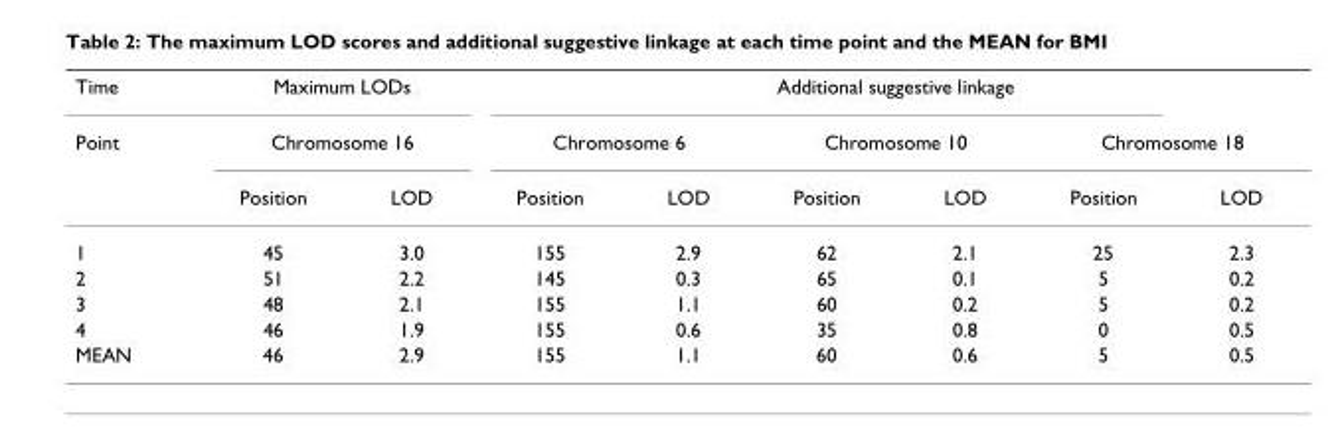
<table><thead><tr><td rowspan="3">Time Point</td><td rowspan="2" colspan="2">Maximum LODs Chromosome 16</td><td colspan="6">Additional suggestive linkage</td></tr><tr><td colspan="2">Chromosome 6</td><td colspan="2">Chromosome 10</td><td colspan="2">Chromosome 18</td></tr><tr><td>Position</td><td>LOD</td><td>Position</td><td>LOD</td><td>Position</td><td>LOD</td><td>Position</td><td>LOD</td></tr></thead><tbody><tr><td>1</td><td>45</td><td>3.0</td><td>155</td><td>2.9</td><td>62</td><td>2.1</td><td>25</td><td>2.3</td></tr><tr><td>2</td><td>51</td><td>2.2</td><td>145</td><td>0.3</td><td>65</td><td>0.1</td><td>5</td><td>0.2</td></tr><tr><td>3</td><td>48</td><td>2.1</td><td>155</td><td>1.1</td><td>60</td><td>0.2</td><td>5</td><td>0.2</td></tr><tr><td>4</td><td>46</td><td>1.9</td><td>155</td><td>0.6</td><td>35</td><td>0.8</td><td>0</td><td>0.5</td></tr><tr><td>MEAN</td><td>46</td><td>2.9</td><td>155</td><td>1.1</td><td>60</td><td>0.6</td><td>5</td><td>0.5</td></tr></tbody></table>